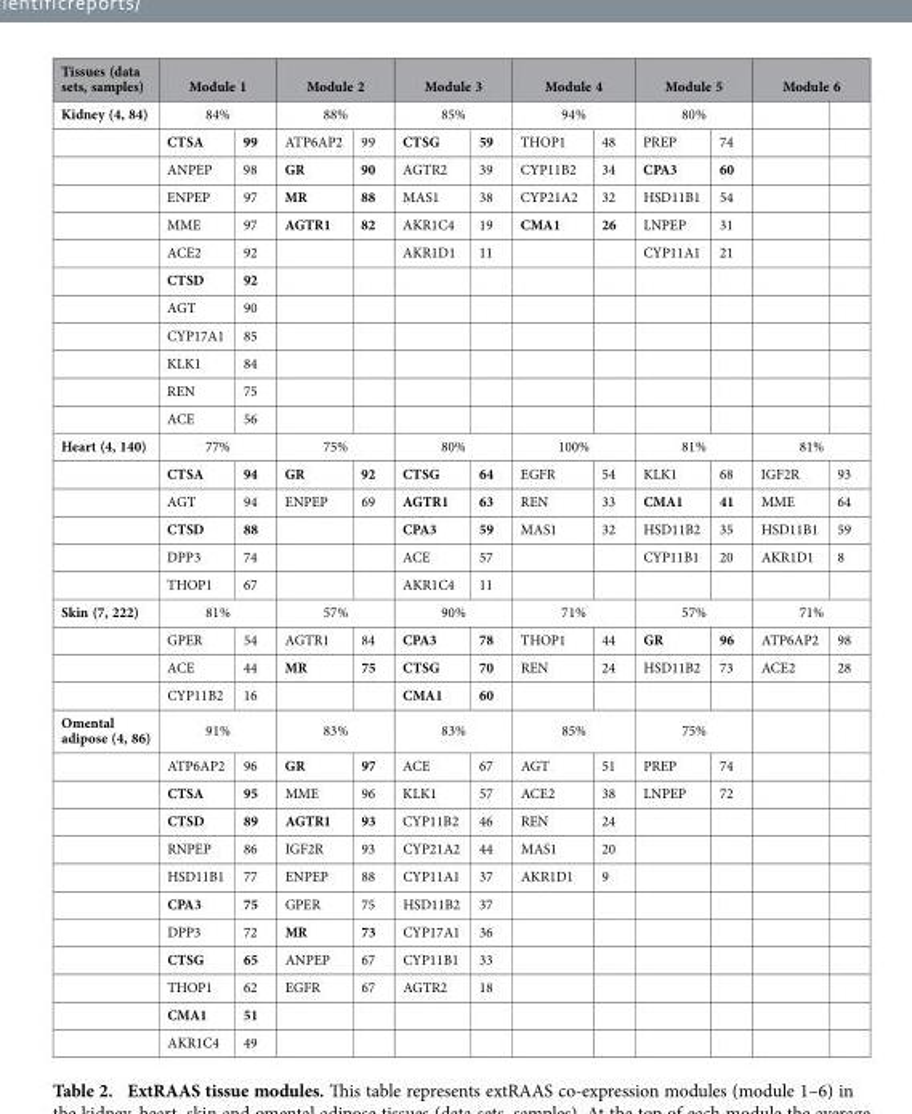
<table><thead><tr><td rowspan="3">Tissues (data sets, samples) Kidney (4, 84)</td><td rowspan="2" colspan="2">Module 1 84%</td><td rowspan="2" colspan="2">Module 2 88%</td><td rowspan="2" colspan="2">Module 3 85%</td><td rowspan="2" colspan="2">Module 4 94%</td><td rowspan="2" colspan="2">Module 5 80%</td><td colspan="2">Module 6</td></tr><tr><td rowspan="2"></td><td rowspan="2"></td></tr><tr><td>CTSA</td><td>99</td><td>ATP6AP2</td><td>99</td><td>CTSG</td><td>59</td><td>THOP1</td><td>48</td><td>PREP</td><td>74</td></tr></thead><tbody><tr><td></td><td>ANPEP</td><td>98</td><td>GR</td><td>90</td><td>AGTR2</td><td>39</td><td>CYP11B2</td><td>34</td><td>CPA3</td><td>60</td><td></td><td></td></tr><tr><td></td><td>ENPEP</td><td>97</td><td>MR</td><td>88</td><td>MAS1</td><td>38</td><td>CYP21A2</td><td>32</td><td>HSD11B1</td><td>54</td><td></td><td></td></tr><tr><td></td><td>MME</td><td>97</td><td>AGTR1</td><td>82</td><td>AKR1C4</td><td>19</td><td>CMA1</td><td>26</td><td>LNPEP</td><td>31</td><td></td><td></td></tr><tr><td></td><td>ACE2</td><td>92</td><td></td><td></td><td>AKR1D1</td><td>11</td><td></td><td></td><td>CYP11A1</td><td>21</td><td></td><td></td></tr><tr><td></td><td>CTSD</td><td>92</td><td></td><td></td><td></td><td></td><td></td><td></td><td></td><td></td><td></td><td></td></tr><tr><td></td><td>AGT</td><td>90</td><td></td><td></td><td></td><td></td><td></td><td></td><td></td><td></td><td></td><td></td></tr><tr><td></td><td>CYP17A1</td><td>85</td><td></td><td></td><td></td><td></td><td></td><td></td><td></td><td></td><td></td><td></td></tr><tr><td></td><td>KLK1</td><td>84</td><td></td><td></td><td></td><td></td><td></td><td></td><td></td><td></td><td></td><td></td></tr><tr><td></td><td>REN</td><td>75</td><td></td><td></td><td></td><td></td><td></td><td></td><td></td><td></td><td></td><td></td></tr><tr><td></td><td>ACE</td><td>56</td><td></td><td></td><td></td><td></td><td></td><td></td><td></td><td></td><td></td><td></td></tr><tr><td rowspan="6">Heart (4, 140)</td><td colspan="2">77%</td><td colspan="2">75%</td><td colspan="2">80%</td><td colspan="2">100%</td><td colspan="2">81%</td><td colspan="2">81%</td></tr><tr><td>CTSA</td><td>94</td><td>GR</td><td>92</td><td>CTSG</td><td>64</td><td>EGFR</td><td>54</td><td>KLK1</td><td>68</td><td>IGF2R</td><td>93</td></tr><tr><td>AGT</td><td>94</td><td>ENPEP</td><td>69</td><td>AGTR1</td><td>63</td><td>REN</td><td>33</td><td>CMA1</td><td>41</td><td>MME</td><td>64</td></tr><tr><td>CTSD</td><td>88</td><td></td><td></td><td>CPA3</td><td>59</td><td>MAS1</td><td>32</td><td>HSD11B2</td><td>35</td><td>HSD11B1</td><td>59</td></tr><tr><td>DPP3</td><td>74</td><td></td><td></td><td>ACE</td><td>57</td><td></td><td></td><td>CYP11B1</td><td>20</td><td>AKR1D1</td><td>8</td></tr><tr><td>THOP1</td><td>67</td><td></td><td></td><td>AKR1C4</td><td>11</td><td></td><td></td><td></td><td></td><td></td><td></td></tr><tr><td rowspan="4">Skin (7, 222)</td><td colspan="2">81%</td><td colspan="2">57%</td><td colspan="2">90%</td><td colspan="2">71%</td><td colspan="2">57%</td><td colspan="2">71%</td></tr><tr><td>GPER</td><td>54</td><td>AGTR1</td><td>84</td><td>CPA3</td><td>78</td><td>THOP1</td><td>44</td><td>GR</td><td>96</td><td>ATP6AP2</td><td>98</td></tr><tr><td>ACE</td><td>44</td><td>MR</td><td>75</td><td>CTSG</td><td>70</td><td>REN</td><td>24</td><td>HSD11B2</td><td>73</td><td>ACE2</td><td>28</td></tr><tr><td>CYP11B2</td><td>16</td><td></td><td></td><td>CMA1</td><td>60</td><td></td><td></td><td></td><td></td><td></td><td></td></tr><tr><td rowspan="12">Omental adipose (4, 86)</td><td colspan="2">91%</td><td colspan="2">83%</td><td colspan="2">83%</td><td colspan="2">85%</td><td colspan="2">75%</td><td></td><td></td></tr><tr><td>ATP6AP2</td><td>96</td><td>GR</td><td>97</td><td>ACE</td><td>67</td><td>AGT</td><td>51</td><td>PREP</td><td>74</td><td></td><td></td></tr><tr><td>CTSA</td><td>95</td><td>MME</td><td>96</td><td>KLK1</td><td>57</td><td>ACE2</td><td>38</td><td>LNPEP</td><td>72</td><td></td><td></td></tr><tr><td>CTSD</td><td>89</td><td>AGTR1</td><td>93</td><td>CYP11B2</td><td>46</td><td>REN</td><td>24</td><td></td><td></td><td></td><td></td></tr><tr><td>RNPEP</td><td>86</td><td>IGF2R</td><td>93</td><td>CYP21A2</td><td>44</td><td>MAS1</td><td>20</td><td></td><td></td><td></td><td></td></tr><tr><td>HSD11B1</td><td>77</td><td>ENPEP</td><td>88</td><td>CYP11A1</td><td>37</td><td>AKR1D1</td><td>9</td><td></td><td></td><td></td><td></td></tr><tr><td>CPA3</td><td>75</td><td>GPER</td><td>75</td><td>HSD11B2</td><td>37</td><td></td><td></td><td></td><td></td><td></td><td></td></tr><tr><td>DPP3</td><td>72</td><td>MR</td><td>73</td><td>CYP17A1</td><td>36</td><td></td><td></td><td></td><td></td><td></td><td></td></tr><tr><td>CTSG</td><td>65</td><td>ANPEP</td><td>67</td><td>CYP11B1</td><td>33</td><td></td><td></td><td></td><td></td><td></td><td></td></tr><tr><td>THOP1</td><td>62</td><td>EGFR</td><td>67</td><td>AGTR2</td><td>18</td><td></td><td></td><td></td><td></td><td></td><td></td></tr><tr><td>CMA1</td><td>51</td><td></td><td></td><td></td><td></td><td></td><td></td><td></td><td></td><td></td><td></td></tr><tr><td>AKR1C4</td><td>49</td><td></td><td></td><td></td><td></td><td></td><td></td><td></td><td></td><td></td><td></td></tr></tbody></table>